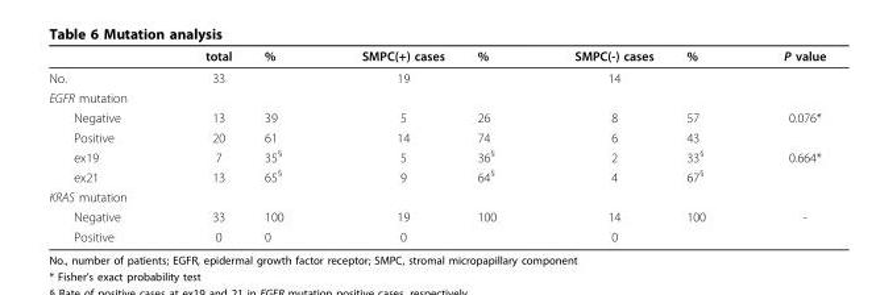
<table><thead><tr><td></td><td>total</td><td>%</td><td>SMPC(+) cases</td><td>%</td><td>SMPC(-) cases</td><td>%</td><td>P value</td></tr></thead><tbody><tr><td>No.</td><td>33</td><td></td><td>19</td><td></td><td>14</td><td></td><td></td></tr><tr><td colspan="8">EGFR mutation</td></tr><tr><td>Negative</td><td>13</td><td>39</td><td>5</td><td>26</td><td>8</td><td>57</td><td>0.076*</td></tr><tr><td>Positive</td><td>20</td><td>61</td><td>14</td><td>74</td><td>6</td><td>43</td><td></td></tr><tr><td>ex19</td><td>7</td><td>35<sup>§</sup></td><td>5</td><td>36<sup>§</sup></td><td>2</td><td>33<sup>§</sup></td><td>0.664*</td></tr><tr><td>ex21</td><td>13</td><td>65<sup>§</sup></td><td>9</td><td>64<sup>§</sup></td><td>4</td><td>67<sup>§</sup></td><td></td></tr><tr><td colspan="8">KRAS mutation</td></tr><tr><td>Negative</td><td>33</td><td>100</td><td>19</td><td>100</td><td>14</td><td>100</td><td>-</td></tr><tr><td>Positive</td><td>0</td><td>0</td><td>0</td><td></td><td>0</td><td></td><td></td></tr></tbody></table>